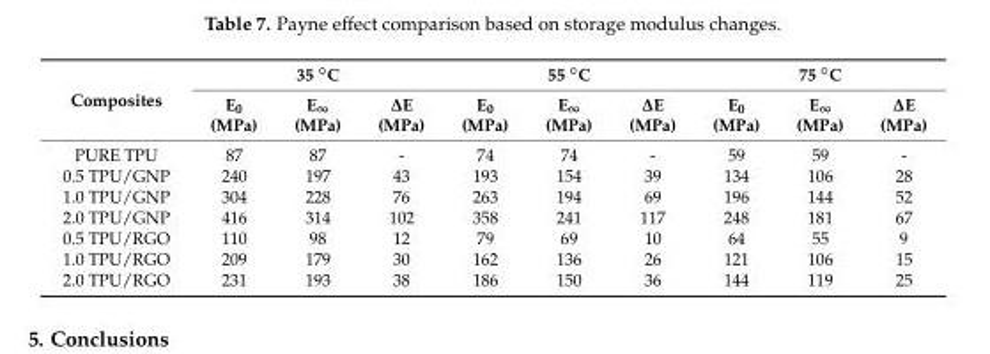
<table><thead><tr><td rowspan="2">Composites</td><td colspan="3">35 ◦C</td><td colspan="3">55 ◦C</td><td colspan="3">75 ◦C</td></tr><tr><td>E<sub>0</sub> (MPa)</td><td>E<sub>∞</sub> (MPa)</td><td>∆E (MPa)</td><td>E<sub>0</sub> (MPa)</td><td>E<sub>∞</sub> (MPa)</td><td>∆E (MPa)</td><td>E<sub>0</sub> (MPa)</td><td>E<sub>∞</sub> (MPa)</td><td>∆E (MPa)</td></tr></thead><tbody><tr><td>PURE TPU</td><td>87</td><td>87</td><td>-</td><td>74</td><td>74</td><td>-</td><td>59</td><td>59</td><td>-</td></tr><tr><td>0.5 TPU/GNP</td><td>240</td><td>197</td><td>43</td><td>193</td><td>154</td><td>39</td><td>134</td><td>106</td><td>28</td></tr><tr><td>1.0 TPU/GNP</td><td>304</td><td>228</td><td>76</td><td>263</td><td>194</td><td>69</td><td>196</td><td>144</td><td>52</td></tr><tr><td>2.0 TPU/GNP</td><td>416</td><td>314</td><td>102</td><td>358</td><td>241</td><td>117</td><td>248</td><td>181</td><td>67</td></tr><tr><td>0.5 TPU/RGO</td><td>110</td><td>98</td><td>12</td><td>79</td><td>69</td><td>10</td><td>64</td><td>55</td><td>9</td></tr><tr><td>1.0 TPU/RGO</td><td>209</td><td>179</td><td>30</td><td>162</td><td>136</td><td>26</td><td>121</td><td>106</td><td>15</td></tr><tr><td>2.0 TPU/RGO</td><td>231</td><td>193</td><td>38</td><td>186</td><td>150</td><td>36</td><td>144</td><td>119</td><td>25</td></tr></tbody></table>